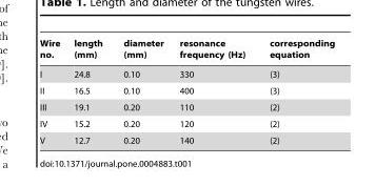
<table><thead><tr><td>Wire no.</td><td>length (mm)</td><td>diameter (mm)</td><td>resonance frequency (Hz)</td><td>corresponding equation</td></tr></thead><tbody><tr><td>I</td><td>24.8</td><td>0.10</td><td>330</td><td>(3)</td></tr><tr><td>II</td><td>16.5</td><td>0.10</td><td>400</td><td>(3)</td></tr><tr><td>III</td><td>19.1</td><td>0.20</td><td>110</td><td>(2)</td></tr><tr><td>IV</td><td>15.2</td><td>0.20</td><td>120</td><td>(2)</td></tr><tr><td>V</td><td>12.7</td><td>0.20</td><td>140</td><td>(2)</td></tr></tbody></table>